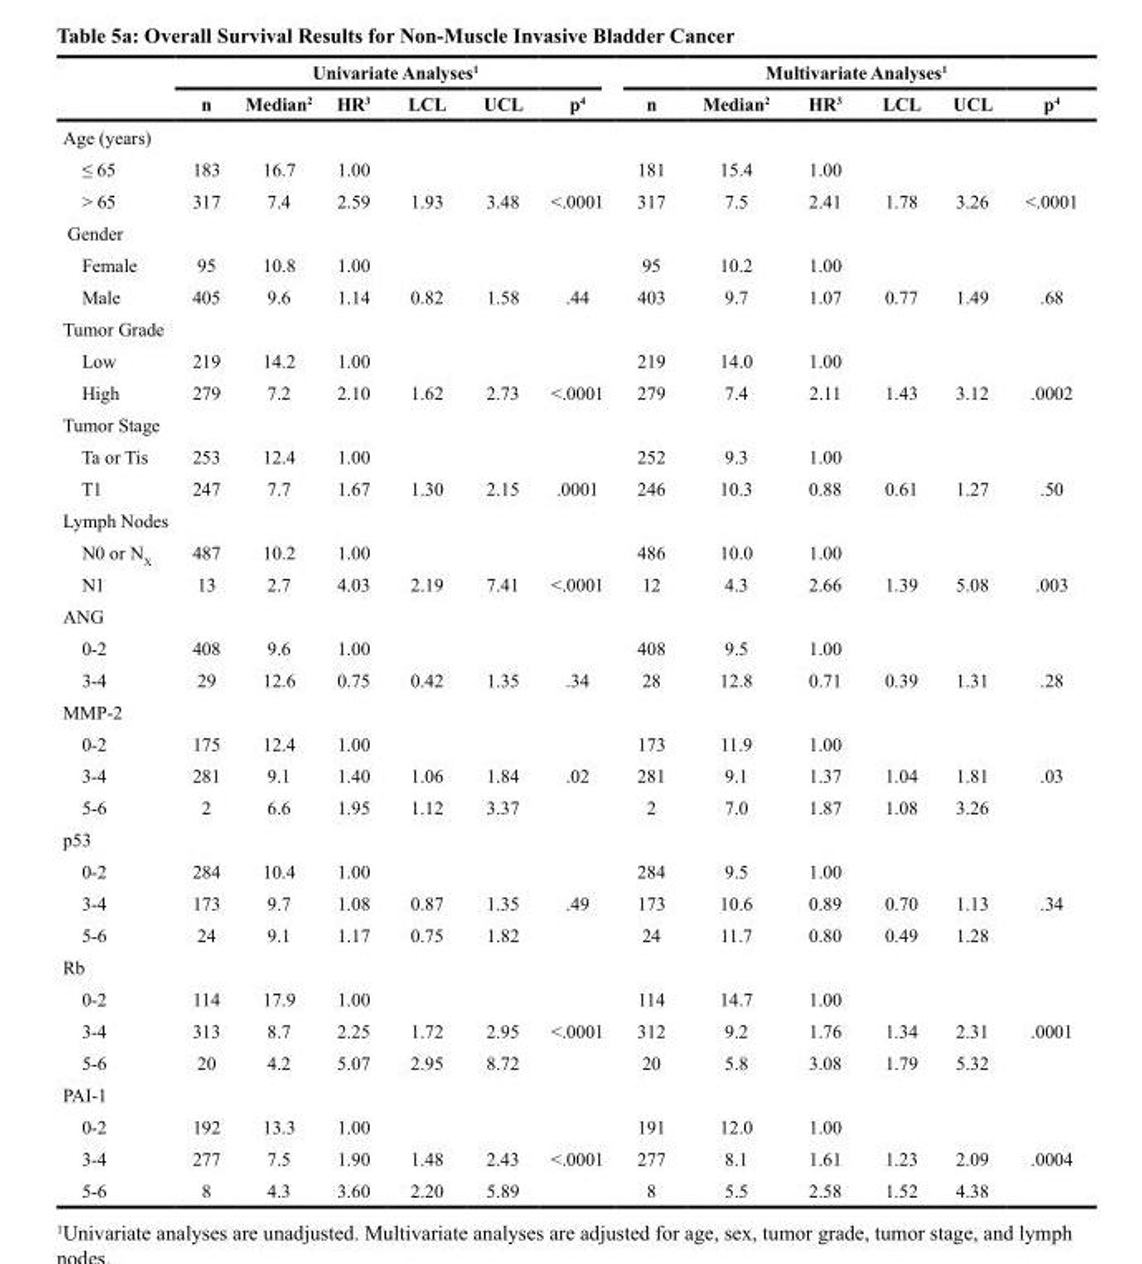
<table><thead><tr><td rowspan="2"></td><td colspan="6">Univariate Analyses<sup>1</sup></td><td colspan="6">Multivariate Analyses<sup>1</sup></td></tr><tr><td>n</td><td>Median<sup>2</sup></td><td>HR<sup>3</sup></td><td>LCL</td><td>UCL</td><td>p<sup>4</sup></td><td>n</td><td>Median<sup>2</sup></td><td>HR<sup>3</sup></td><td>LCL</td><td>UCL</td><td>p<sup>4</sup></td></tr></thead><tbody><tr><td colspan="13">Age (years)</td></tr><tr><td>≤ 65</td><td>183</td><td>16.7</td><td>1.00</td><td></td><td></td><td></td><td>181</td><td>15.4</td><td>1.00</td><td></td><td></td><td></td></tr><tr><td>&gt; 65</td><td>317</td><td>7.4</td><td>2.59</td><td>1.93</td><td>3.48</td><td>&lt;.0001</td><td>317</td><td>7.5</td><td>2.41</td><td>1.78</td><td>3.26</td><td>&lt;.0001</td></tr><tr><td colspan="13">Gender</td></tr><tr><td>Female</td><td>95</td><td>10.8</td><td>1.00</td><td></td><td></td><td></td><td>95</td><td>10.2</td><td>1.00</td><td></td><td></td><td></td></tr><tr><td>Male</td><td>405</td><td>9.6</td><td>1.14</td><td>0.82</td><td>1.58</td><td>.44</td><td>403</td><td>9.7</td><td>1.07</td><td>0.77</td><td>1.49</td><td>.68</td></tr><tr><td colspan="13">Tumor Grade</td></tr><tr><td>Low</td><td>219</td><td>14.2</td><td>1.00</td><td></td><td></td><td></td><td>219</td><td>14.0</td><td>1.00</td><td></td><td></td><td></td></tr><tr><td>High</td><td>279</td><td>7.2</td><td>2.10</td><td>1.62</td><td>2.73</td><td>&lt;.0001</td><td>279</td><td>7.4</td><td>2.11</td><td>1.43</td><td>3.12</td><td>.0002</td></tr><tr><td colspan="13">Tumor Stage</td></tr><tr><td>Ta or Tis</td><td>253</td><td>12.4</td><td>1.00</td><td></td><td></td><td></td><td>252</td><td>9.3</td><td>1.00</td><td></td><td></td><td></td></tr><tr><td>T1</td><td>247</td><td>7.7</td><td>1.67</td><td>1.30</td><td>2.15</td><td>.0001</td><td>246</td><td>10.3</td><td>0.88</td><td>0.61</td><td>1.27</td><td>.50</td></tr><tr><td colspan="13">Lymph Nodes</td></tr><tr><td>N0 or N<sub>X</sub></td><td>487</td><td>10.2</td><td>1.00</td><td></td><td></td><td></td><td>486</td><td>10.0</td><td>1.00</td><td></td><td></td><td></td></tr><tr><td>N1</td><td>13</td><td>2.7</td><td>4.03</td><td>2.19</td><td>7.41</td><td>&lt;.0001</td><td>12</td><td>4.3</td><td>2.66</td><td>1.39</td><td>5.08</td><td>.003</td></tr><tr><td colspan="13">ANG</td></tr><tr><td>0-2</td><td>408</td><td>9.6</td><td>1.00</td><td></td><td></td><td></td><td>408</td><td>9.5</td><td>1.00</td><td></td><td></td><td></td></tr><tr><td>3-4</td><td>29</td><td>12.6</td><td>0.75</td><td>0.42</td><td>1.35</td><td>.34</td><td>28</td><td>12.8</td><td>0.71</td><td>0.39</td><td>1.31</td><td>.28</td></tr><tr><td colspan="13">MMP-2</td></tr><tr><td>0-2</td><td>175</td><td>12.4</td><td>1.00</td><td></td><td></td><td></td><td>173</td><td>11.9</td><td>1.00</td><td></td><td></td><td></td></tr><tr><td>3-4</td><td>281</td><td>9.1</td><td>1.40</td><td>1.06</td><td>1.84</td><td>.02</td><td>281</td><td>9.1</td><td>1.37</td><td>1.04</td><td>1.81</td><td>.03</td></tr><tr><td>5-6</td><td>2</td><td>6.6</td><td>1.95</td><td>1.12</td><td>3.37</td><td></td><td>2</td><td>7.0</td><td>1.87</td><td>1.08</td><td>3.26</td><td></td></tr><tr><td colspan="13">p53</td></tr><tr><td>0-2</td><td>284</td><td>10.4</td><td>1.00</td><td></td><td></td><td></td><td>284</td><td>9.5</td><td>1.00</td><td></td><td></td><td></td></tr><tr><td>3-4</td><td>173</td><td>9.7</td><td>1.08</td><td>0.87</td><td>1.35</td><td>.49</td><td>173</td><td>10.6</td><td>0.89</td><td>0.70</td><td>1.13</td><td>.34</td></tr><tr><td>5-6</td><td>24</td><td>9.1</td><td>1.17</td><td>0.75</td><td>1.82</td><td></td><td>24</td><td>11.7</td><td>0.80</td><td>0.49</td><td>1.28</td><td></td></tr><tr><td colspan="13">Rb</td></tr><tr><td>0-2</td><td>114</td><td>17.9</td><td>1.00</td><td></td><td></td><td></td><td>114</td><td>14.7</td><td>1.00</td><td></td><td></td><td></td></tr><tr><td>3-4</td><td>313</td><td>8.7</td><td>2.25</td><td>1.72</td><td>2.95</td><td>&lt;.0001</td><td>312</td><td>9.2</td><td>1.76</td><td>1.34</td><td>2.31</td><td>.0001</td></tr><tr><td>5-6</td><td>20</td><td>4.2</td><td>5.07</td><td>2.95</td><td>8.72</td><td></td><td>20</td><td>5.8</td><td>3.08</td><td>1.79</td><td>5.32</td><td></td></tr><tr><td colspan="13">PAI-1</td></tr><tr><td>0-2</td><td>192</td><td>13.3</td><td>1.00</td><td></td><td></td><td></td><td>191</td><td>12.0</td><td>1.00</td><td></td><td></td><td></td></tr><tr><td>3-4</td><td>277</td><td>7.5</td><td>1.90</td><td>1.48</td><td>2.43</td><td>&lt;.0001</td><td>277</td><td>8.1</td><td>1.61</td><td>1.23</td><td>2.09</td><td>.0004</td></tr><tr><td>5-6</td><td>8</td><td>4.3</td><td>3.60</td><td>2.20</td><td>5.89</td><td></td><td>8</td><td>5.5</td><td>2.58</td><td>1.52</td><td>4.38</td><td></td></tr></tbody></table>